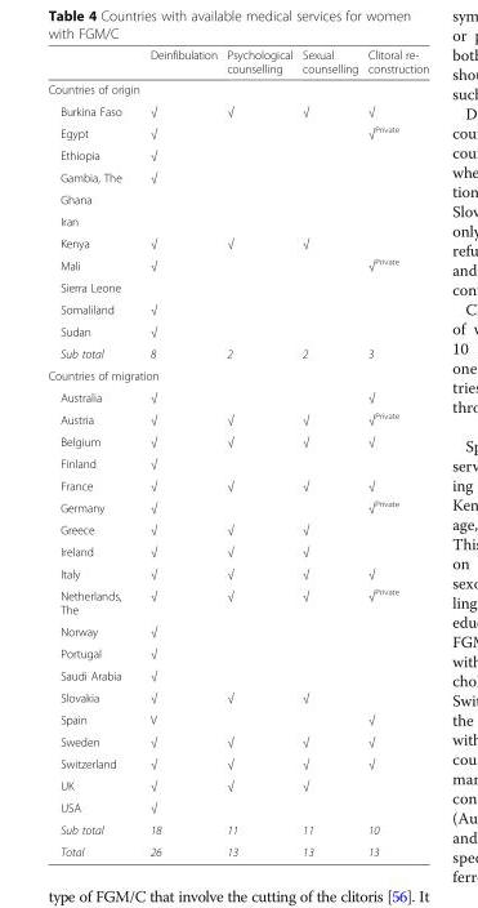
<table><thead><tr><td></td><td>Deinfibulation</td><td>Psychological counselling</td><td>Sexual counselling</td><td>Clitoral re- construction</td></tr></thead><tbody><tr><td colspan="5">Countries of origin</td></tr><tr><td>Burkina Faso</td><td>√</td><td>√</td><td>√</td><td>√</td></tr><tr><td>Egypt</td><td>√</td><td></td><td></td><td>√<sup>Private</sup></td></tr><tr><td>Ethiopia</td><td>√</td><td></td><td></td><td></td></tr><tr><td>Gambia, The</td><td>√</td><td></td><td></td><td></td></tr><tr><td colspan="5">Ghana</td></tr><tr><td colspan="5">Iran</td></tr><tr><td>Kenya</td><td>√</td><td>√</td><td>√</td><td></td></tr><tr><td>Mali</td><td>√</td><td></td><td></td><td>√<sup>Private</sup></td></tr><tr><td colspan="5">Sierra Leone</td></tr><tr><td>Somaliland</td><td>√</td><td></td><td></td><td></td></tr><tr><td>Sudan</td><td>√</td><td></td><td></td><td></td></tr><tr><td>Sub total</td><td>8</td><td>2</td><td>2</td><td>3</td></tr><tr><td colspan="5">Countries of migration</td></tr><tr><td>Australia</td><td>√</td><td></td><td></td><td>√</td></tr><tr><td>Austria</td><td>√</td><td>√</td><td>√</td><td>√<sup>Private</sup></td></tr><tr><td>Belgium</td><td>√</td><td>√</td><td>√</td><td>√</td></tr><tr><td>Finland</td><td>√</td><td></td><td></td><td></td></tr><tr><td>France</td><td>√</td><td>√</td><td>√</td><td>√</td></tr><tr><td>Germany</td><td>√</td><td></td><td></td><td>√<sup>Private</sup></td></tr><tr><td>Greece</td><td>√</td><td>√</td><td>√</td><td></td></tr><tr><td>Ireland</td><td>√</td><td>√</td><td>√</td><td></td></tr><tr><td>Italy</td><td>√</td><td>√</td><td>√</td><td>√</td></tr><tr><td>Netherlands, The</td><td>√</td><td>√</td><td>√</td><td>√<sup>Private</sup></td></tr><tr><td>Norway</td><td>√</td><td></td><td></td><td></td></tr><tr><td>Portugal</td><td>√</td><td></td><td></td><td></td></tr><tr><td>Saudi Arabia</td><td>√</td><td></td><td></td><td></td></tr><tr><td>Slovakia</td><td>√</td><td>√</td><td>√</td><td></td></tr><tr><td>Spain</td><td>V</td><td></td><td></td><td>√</td></tr><tr><td>Sweden</td><td>√</td><td>√</td><td>√</td><td>√</td></tr><tr><td>Switzerland</td><td>√</td><td>√</td><td>√</td><td>√</td></tr><tr><td>UK</td><td>√</td><td>√</td><td>√</td><td></td></tr><tr><td>USA</td><td>√</td><td></td><td></td><td></td></tr><tr><td>Sub total</td><td>18</td><td>11</td><td>11</td><td>10</td></tr><tr><td>Total</td><td>26</td><td>13</td><td>13</td><td>13</td></tr></tbody></table>